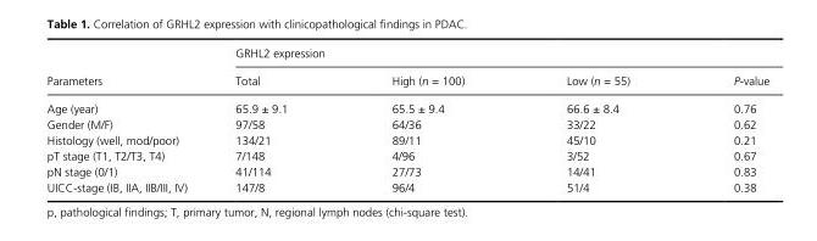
<table><thead><tr><td rowspan="2">Parameters</td><td colspan="4">GRHL2 expression</td></tr><tr><td>Total</td><td>High (n = 100)</td><td>Low (n = 55)</td><td>P- value</td></tr></thead><tbody><tr><td>Age (year)</td><td>65.9 ± 9.1</td><td>65.5 ± 9.4</td><td>66.6 ± 8.4</td><td>0.76</td></tr><tr><td>Gender (M/F)</td><td>97/58</td><td>64/36</td><td>33/22</td><td>0.62</td></tr><tr><td>Histology (well, mod/poor)</td><td>134/21</td><td>89/11</td><td>45/10</td><td>0.21</td></tr><tr><td>pT stage (T1, T2/T3, T4)</td><td>7/148</td><td>4/96</td><td>3/52</td><td>0.67</td></tr><tr><td>pN stage (0/1)</td><td>41/114</td><td>27/73</td><td>14/41</td><td>0.83</td></tr><tr><td>UICC- stage (IB, IIA, IIB/III, IV)</td><td>147/8</td><td>96/4</td><td>51/4</td><td>0.38</td></tr></tbody></table>